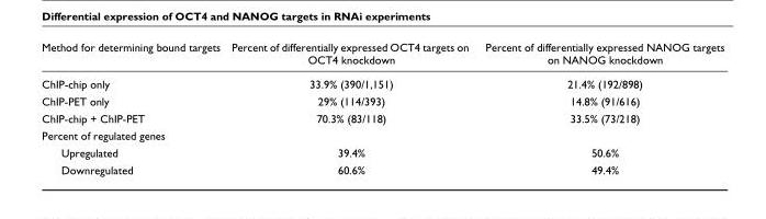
<table><thead><tr><td>Method for determining bound targets</td><td>Percent of differentially expressed OCT4 targets on OCT4 knockdown</td><td>Percent of differentially expressed NANOG targets on NANOG knockdown</td></tr></thead><tbody><tr><td>ChIP-chip only</td><td>33.9% (390/1,151)</td><td>21.4% (192/898)</td></tr><tr><td>ChIP-PET only</td><td>29% (114/393)</td><td>14.8% (91/616)</td></tr><tr><td>ChIP-chip + ChIP-PET</td><td>70.3% (83/118)</td><td>33.5% (73/218)</td></tr><tr><td colspan="3">Percent of regulated genes</td></tr><tr><td>Upregulated</td><td>39.4%</td><td>50.6%</td></tr><tr><td>Downregulated</td><td>60.6%</td><td>49.4%</td></tr></tbody></table>